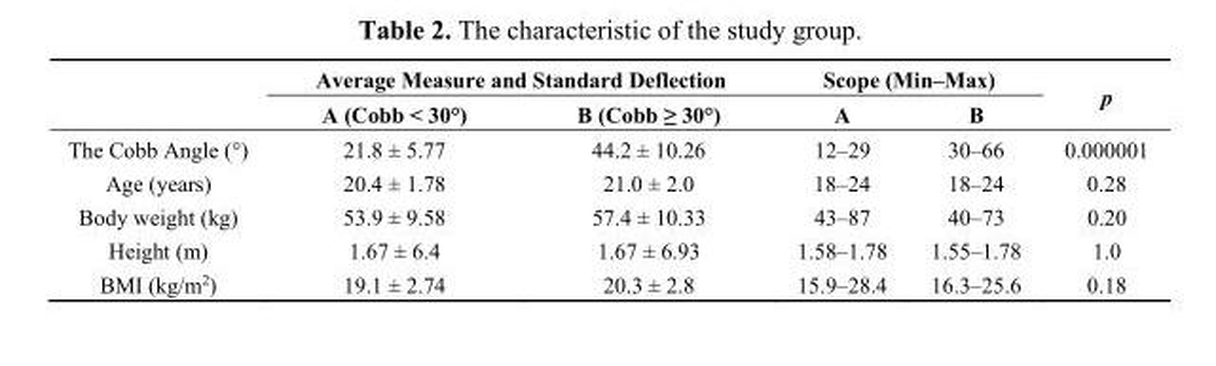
<table><thead><tr><td rowspan="2"></td><td colspan="2">Average Measure and Standard Deflection</td><td colspan="2">Scope (Min–Max)</td><td rowspan="2">p</td></tr><tr><td>A (Cobb &lt; 30°)</td><td>B (Cobb ≥ 30°)</td><td>A</td><td>B</td></tr></thead><tbody><tr><td>The Cobb Angle (°)</td><td>21.8 ± 5.77</td><td>44.2 ± 10.26</td><td>12–29</td><td>30–66</td><td>0.000001</td></tr><tr><td>Age (years)</td><td>20.4 ± 1.78</td><td>21.0 ± 2.0</td><td>18–24</td><td>18–24</td><td>0.28</td></tr><tr><td>Body weight (kg)</td><td>53.9 ± 9.58</td><td>57.4 ± 10.33</td><td>43–87</td><td>40–73</td><td>0.20</td></tr><tr><td>Height (m)</td><td>1.67 ± 6.4</td><td>1.67 ± 6.93</td><td>1.58–1.78</td><td>1.55–1.78</td><td>1.0</td></tr><tr><td>BMI (kg/m<sup>2</sup>)</td><td>19.1 ± 2.74</td><td>20.3 ± 2.8</td><td>15.9–28.4</td><td>16.3–25.6</td><td>0.18</td></tr></tbody></table>